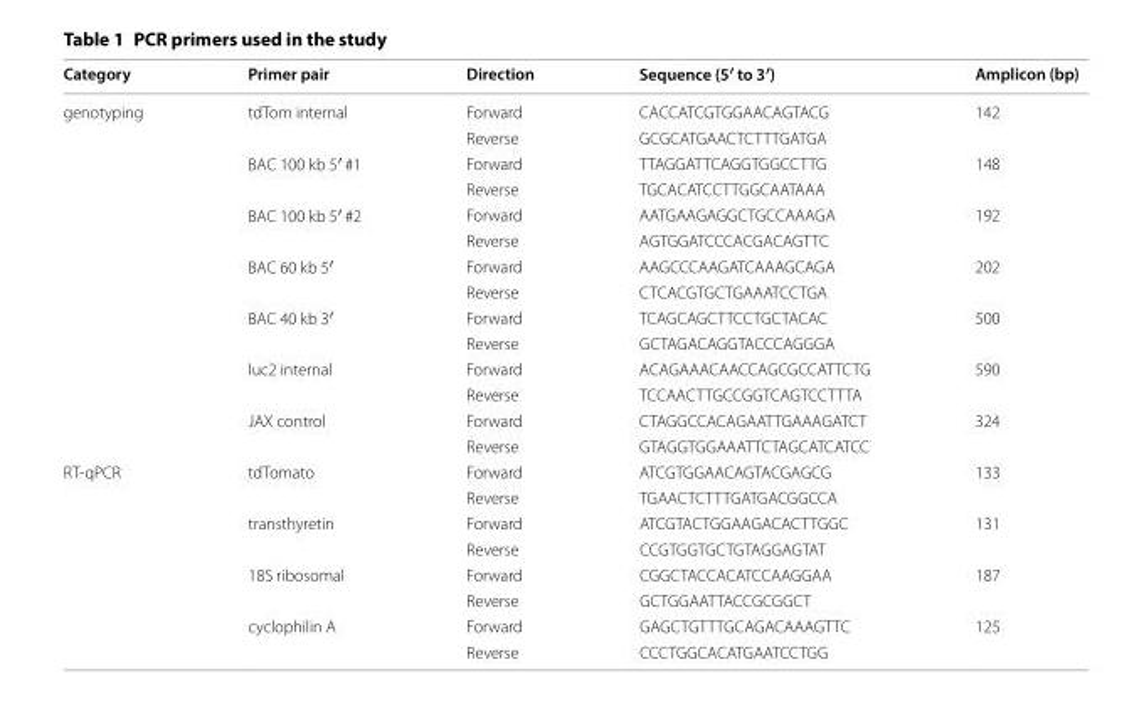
<table><thead><tr><td>Category</td><td>Primer pair</td><td>Direction</td><td>Sequence (5′ to 3′)</td><td>Amplicon (bp)</td></tr></thead><tbody><tr><td rowspan="14">genotyping</td><td rowspan="2">tdTom internal</td><td>Forward</td><td>CAC CAT CGT GGA ACA GTA CG</td><td rowspan="2">142</td></tr><tr><td>Reverse</td><td>GCG CAT GAA CTC TTT GAT GA</td></tr><tr><td rowspan="2">BAC 100 kb 5′ #1</td><td>Forward</td><td>TTA GGA TTC AGG TGG CCT TG</td><td rowspan="2">148</td></tr><tr><td>Reverse</td><td>TGC ACA TCC TTG GCA ATA AA</td></tr><tr><td rowspan="2">BAC 100 kb 5′ #2</td><td>Forward</td><td>AAT GAA GAG GCT GCC AAA GA</td><td rowspan="2">192</td></tr><tr><td>Reverse</td><td>AGT GGA TCC CAC GAC AGT TC</td></tr><tr><td rowspan="2">BAC 60 kb 5′</td><td>Forward</td><td>AAG CCC AAG ATC AAA GCA GA</td><td rowspan="2">202</td></tr><tr><td>Reverse</td><td>CTC ACG TGC TGA AAT CCT GA</td></tr><tr><td rowspan="2">BAC 40 kb 3′</td><td>Forward</td><td>TCA GCA GCT TCC TGC TAC AC</td><td rowspan="2">500</td></tr><tr><td>Reverse</td><td>GCT AGA CAG GTA CCC AGG GA</td></tr><tr><td rowspan="2">luc2 internal</td><td>Forward</td><td>ACA GAA ACA ACC AGC GCC ATT CTG</td><td rowspan="2">590</td></tr><tr><td>Reverse</td><td>TCC AAC TTG CCG GTC AGT CCT TTA</td></tr><tr><td rowspan="2">JAX control</td><td>Forward</td><td>CTA GGC CAC AGA ATT GAA AGA TCT</td><td rowspan="2">324</td></tr><tr><td>Reverse</td><td>GTA GGT GGA AAT TCT AGC ATC ATC C</td></tr><tr><td rowspan="8">RT‑qPCR</td><td rowspan="2">tdTomato</td><td>Forward</td><td>ATC GTG GAA CAG TAC GAG CG</td><td rowspan="2">133</td></tr><tr><td>Reverse</td><td>TGA ACT CTT TGA TGA CGG CCA</td></tr><tr><td rowspan="2">transthyretin</td><td>Forward</td><td>ATC GTA CTG GAA GAC ACT TGGC</td><td rowspan="2">131</td></tr><tr><td>Reverse</td><td>CCG TGG TGC TGT AGG AGT AT</td></tr><tr><td rowspan="2">18S ribosomal</td><td>Forward</td><td>CGG CTA CCA CAT CCA AGG AA</td><td rowspan="2">187</td></tr><tr><td>Reverse</td><td>GCT GGA ATT ACC GCG GCT</td></tr><tr><td rowspan="2">cyclophilin A</td><td>Forward</td><td>GAG CTG TTT GCA GAC AAA GTTC</td><td rowspan="2">125</td></tr><tr><td>Reverse</td><td>CCC TGG CAC ATG AAT CCT GG</td></tr></tbody></table>